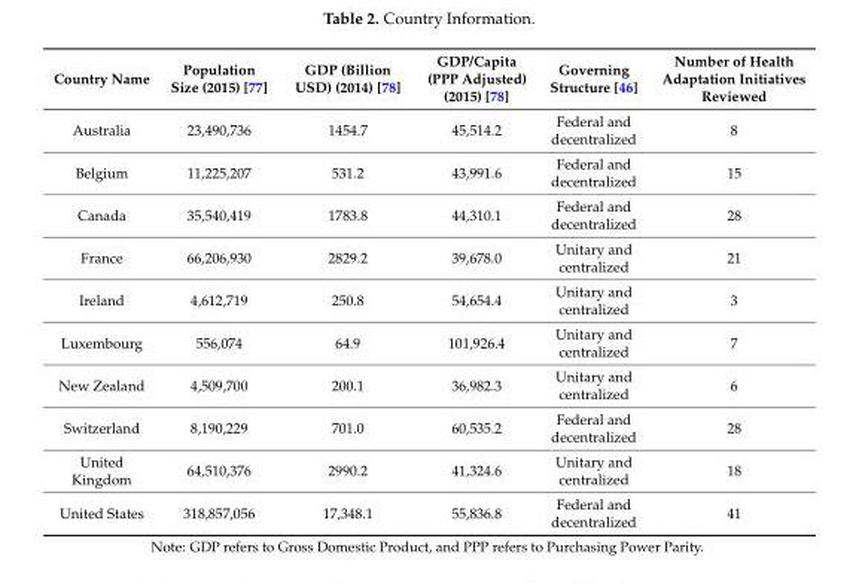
<table><thead><tr><td>Country Name</td><td>Population Size (2015) [77]</td><td>GDP (Billion USD) (2014) [78]</td><td>GDP/Capita (PPP Adjusted) (2015) [78]</td><td>Governing Structure [46]</td><td>Number of Health Adaptation Initiatives Reviewed</td></tr></thead><tbody><tr><td>Australia</td><td>23,490,736</td><td>1454.7</td><td>45,514.2</td><td>Federal and decentralized</td><td>8</td></tr><tr><td>Belgium</td><td>11,225,207</td><td>531.2</td><td>43,991.6</td><td>Federal and decentralized</td><td>15</td></tr><tr><td>Canada</td><td>35,540,419</td><td>1783.8</td><td>44,310.1</td><td>Federal and decentralized</td><td>28</td></tr><tr><td>France</td><td>66,206,930</td><td>2829.2</td><td>39,678.0</td><td>Unitary and centralized</td><td>21</td></tr><tr><td>Ireland</td><td>4,612,719</td><td>250.8</td><td>54,654.4</td><td>Unitary and centralized</td><td>3</td></tr><tr><td>Luxembourg</td><td>556,074</td><td>64.9</td><td>101,926.4</td><td>Unitary and centralized</td><td>7</td></tr><tr><td>New Zealand</td><td>4,509,700</td><td>200.1</td><td>36,982.3</td><td>Unitary and centralized</td><td>6</td></tr><tr><td>Switzerland</td><td>8,190,229</td><td>701.0</td><td>60,535.2</td><td>Federal and decentralized</td><td>28</td></tr><tr><td>United Kingdom</td><td>64,510,376</td><td>2990.2</td><td>41,324.6</td><td>Unitary and centralized</td><td>18</td></tr><tr><td>United States</td><td>318,857,056</td><td>17,348.1</td><td>55,836.8</td><td>Federal and decentralized</td><td>41</td></tr></tbody></table>